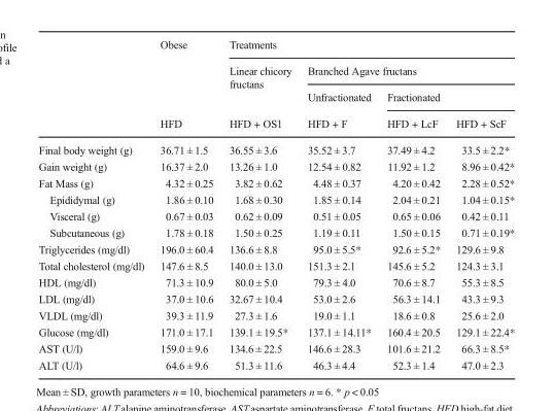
<table><thead><tr><td rowspan="4"></td><td rowspan="4">Obese HFD</td><td colspan="4">Treatments</td></tr><tr><td rowspan="3">Linear chicory fructans HFD + OS1</td><td colspan="3">Branched Agave fructans</td></tr><tr><td rowspan="2">Unfractionated HFD + F</td><td colspan="2">Fractionated</td></tr><tr><td>HFD + LcF</td><td>HFD + ScF</td></tr></thead><tbody><tr><td>Final body weight (g)</td><td>36.71 ± 1.5</td><td>36.55 ± 3.6</td><td>35.52 ± 3.7</td><td>37.49 ± 4.2</td><td>33.5 ± 2.2*</td></tr><tr><td>Gain weight (g)</td><td>16.37 ± 2.0</td><td>13.26 ± 1.0</td><td>12.54 ± 0.82</td><td>11.92 ± 1.2</td><td>8.96 ± 0.42*</td></tr><tr><td>Fat Mass (g)</td><td>4.32 ± 0.25</td><td>3.82 ± 0.62</td><td>4.48 ± 0.37</td><td>4.20 ± 0.42</td><td>2.28 ± 0.52*</td></tr><tr><td>Epididymal (g)</td><td>1.86 ± 0.10</td><td>1.68 ± 0.30</td><td>1.85 ± 0.14</td><td>2.04 ± 0.21</td><td>1.04 ± 0.15*</td></tr><tr><td>Visceral (g)</td><td>0.67 ± 0.03</td><td>0.62 ± 0.09</td><td>0.51 ± 0.05</td><td>0.65 ± 0.06</td><td>0.42 ± 0.11</td></tr><tr><td>Subcutaneous (g)</td><td>1.78 ± 0.18</td><td>1.50 ± 0.25</td><td>1.19 ± 0.11</td><td>1.50 ± 0.15</td><td>0.71 ± 0.19*</td></tr><tr><td>Triglycerides (mg/dl)</td><td>196.0 ± 60.4</td><td>136.6 ± 8.8</td><td>95.0 ± 5.5*</td><td>92.6 ± 5.2*</td><td>129.6 ± 9.8</td></tr><tr><td>Total cholesterol (mg/dl)</td><td>147.6 ± 8.5</td><td>140.0 ± 13.0</td><td>151.3 ± 2.1</td><td>145.6 ± 5.2</td><td>124.3 ± 3.1</td></tr><tr><td>HDL (mg/dl)</td><td>71.3 ± 10.9</td><td>80.0 ± 5.0</td><td>79.3 ± 4.0</td><td>70.6 ± 8.7</td><td>55.3 ± 8.5</td></tr><tr><td>LDL (mg/dl)</td><td>37.0 ± 10.6</td><td>32.67 ± 10.4</td><td>53.0 ± 2.6</td><td>56.3 ± 14.1</td><td>43.3 ± 9.3</td></tr><tr><td>VLDL (mg/dl)</td><td>39.3 ± 11.9</td><td>27.3 ± 1.6</td><td>19.0 ± 1.1</td><td>18.6 ± 0.8</td><td>25.6 ± 2.0</td></tr><tr><td>Glucose (mg/dl)</td><td>171.0 ± 17.1</td><td>139.1 ± 19.5*</td><td>137.1 ± 14.11*</td><td>160.4 ± 20.5</td><td>129.1 ± 22.4*</td></tr><tr><td>AST (U/l)</td><td>159.0 ± 9.6</td><td>134.6 ± 22.5</td><td>146.6 ± 28.3</td><td>101.6 ± 21.2</td><td>66.3 ± 8.5*</td></tr><tr><td>ALT (U/l)</td><td>64.6 ± 9.6</td><td>51.3 ± 11.6</td><td>46.3 ± 4.4</td><td>52.3 ± 1.4</td><td>47.0 ± 2.3</td></tr></tbody></table>